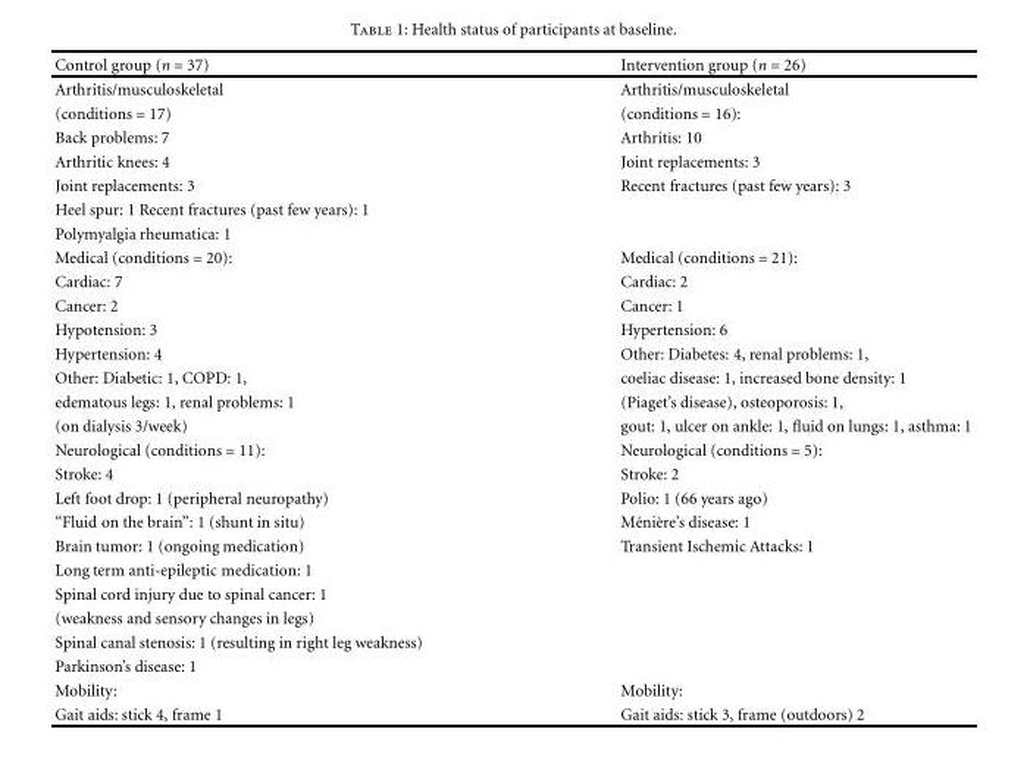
<table><thead><tr><td>Control group (n = 37)</td><td>Intervention group (n = 26)</td></tr></thead><tbody><tr><td>Arthritis/musculoskeletal</td><td>Arthritis/musculoskeletal</td></tr><tr><td>(conditions = 17)</td><td>(conditions = 16):</td></tr><tr><td>Back problems: 7</td><td>Arthritis: 10</td></tr><tr><td>Arthritic knees: 4</td><td>Joint replacements: 3</td></tr><tr><td>Joint replacements: 3</td><td>Recent fractures (past few years): 3</td></tr><tr><td colspan="2">Heel spur: 1 Recent fractures (past few years): 1</td></tr><tr><td colspan="2">Polymyalgia rheumatica: 1</td></tr><tr><td>Medical (conditions = 20):</td><td>Medical (conditions = 21):</td></tr><tr><td>Cardiac: 7</td><td>Cardiac: 2</td></tr><tr><td>Cancer: 2</td><td>Cancer: 1</td></tr><tr><td>Hypotension: 3</td><td>Hypertension: 6</td></tr><tr><td>Hypertension: 4</td><td>Other: Diabetes: 4, renal problems: 1,</td></tr><tr><td>Other: Diabetic: 1, COPD: 1,</td><td>coeliac disease: 1, increased bone density: 1</td></tr><tr><td>edematous legs: 1, renal problems: 1</td><td>(Piaget’s disease), osteoporosis: 1,</td></tr><tr><td>(on dialysis 3/week)</td><td>gout: 1, ulcer on ankle: 1, fluid on lungs: 1, asthma: 1</td></tr><tr><td>Neurological (conditions = 11):</td><td>Neurological (conditions = 5):</td></tr><tr><td>Stroke: 4</td><td>Stroke: 2</td></tr><tr><td>Left foot drop: 1 (peripheral neuropathy)</td><td>Polio: 1 (66 years ago)</td></tr><tr><td>“Fluid on the brain”: 1 (shunt in situ)</td><td>M´eni`ere’s disease: 1</td></tr><tr><td>Brain tumor: 1 (ongoing medication)</td><td>Transient Ischemic Attacks: 1</td></tr><tr><td colspan="2">Long term anti-epileptic medication: 1</td></tr><tr><td colspan="2">Spinal cord injury due to spinal cancer: 1</td></tr><tr><td colspan="2">(weakness and sensory changes in legs)</td></tr><tr><td colspan="2">Spinal canal stenosis: 1 (resulting in right leg weakness)</td></tr><tr><td colspan="2">Parkinson’s disease: 1</td></tr><tr><td>Mobility:</td><td>Mobility:</td></tr><tr><td>Gait aids: stick 4, frame 1</td><td>Gait aids: stick 3, frame (outdoors) 2</td></tr></tbody></table>